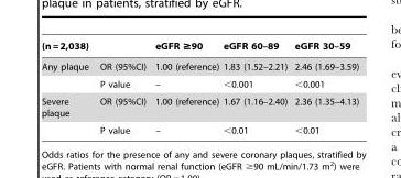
<table><thead><tr><td colspan="2">(n = 2,038)</td><td rowspan="2">eGFR ≥90 1.00 (reference)</td><td rowspan="2">eGFR 60–89 1.83 (1.52–2.21)</td><td rowspan="2">eGFR 30–59 2.46 (1.69–3.59)</td></tr><tr><td>Any plaque</td><td>OR (95%CI)</td></tr></thead><tbody><tr><td></td><td>P value</td><td>–</td><td>&lt;0.001</td><td>&lt;0.001</td></tr><tr><td rowspan="2">Severe plaque</td><td>OR (95%CI)</td><td>1.00 (reference)</td><td>1.67 (1.16–2.40)</td><td>2.36 (1.35–4.13)</td></tr><tr><td>P value</td><td>–</td><td>&lt;0.01</td><td>&lt;0.01</td></tr></tbody></table>